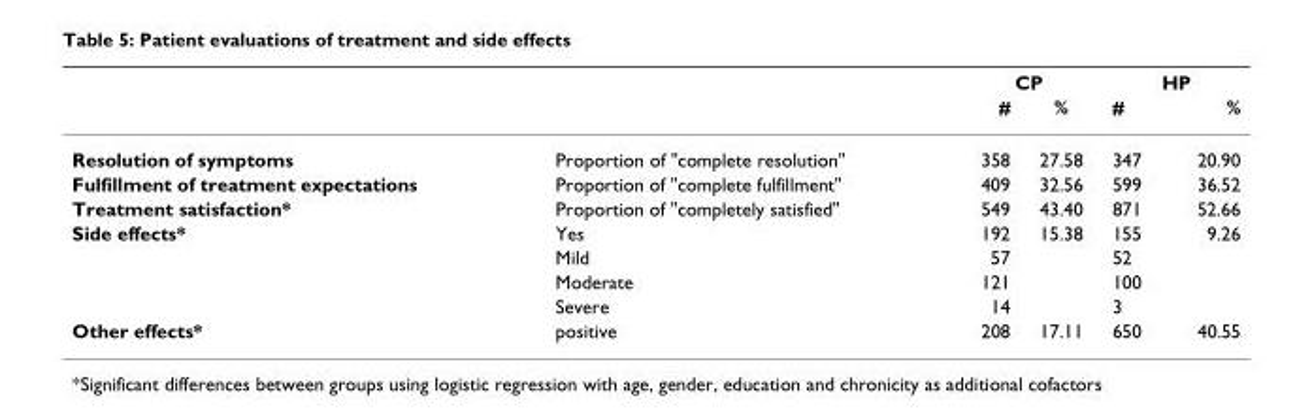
<table><thead><tr><td rowspan="2"></td><td rowspan="2"></td><td colspan="2">CP</td><td colspan="2">HP</td></tr><tr><td>#</td><td>%</td><td>#</td><td>%</td></tr></thead><tbody><tr><td>Resolution of symptoms</td><td>Proportion of &quot;complete resolution&quot;</td><td>358</td><td>27.58</td><td>347</td><td>20.90</td></tr><tr><td>Fulfillment of treatment expectations</td><td>Proportion of &quot;complete fulfillment&quot;</td><td>409</td><td>32.56</td><td>599</td><td>36.52</td></tr><tr><td>Treatment satisfaction*</td><td>Proportion of &quot;completely satisfied&quot;</td><td>549</td><td>43.40</td><td>871</td><td>52.66</td></tr><tr><td rowspan="4">Side effects*</td><td>Yes</td><td>192</td><td>15.38</td><td>155</td><td>9.26</td></tr><tr><td>Mild</td><td>57</td><td></td><td>52</td><td></td></tr><tr><td>Moderate</td><td>121</td><td></td><td>100</td><td></td></tr><tr><td>Severe</td><td>14</td><td></td><td>3</td><td></td></tr><tr><td>Other effects*</td><td>positive</td><td>208</td><td>17.11</td><td>650</td><td>40.55</td></tr></tbody></table>